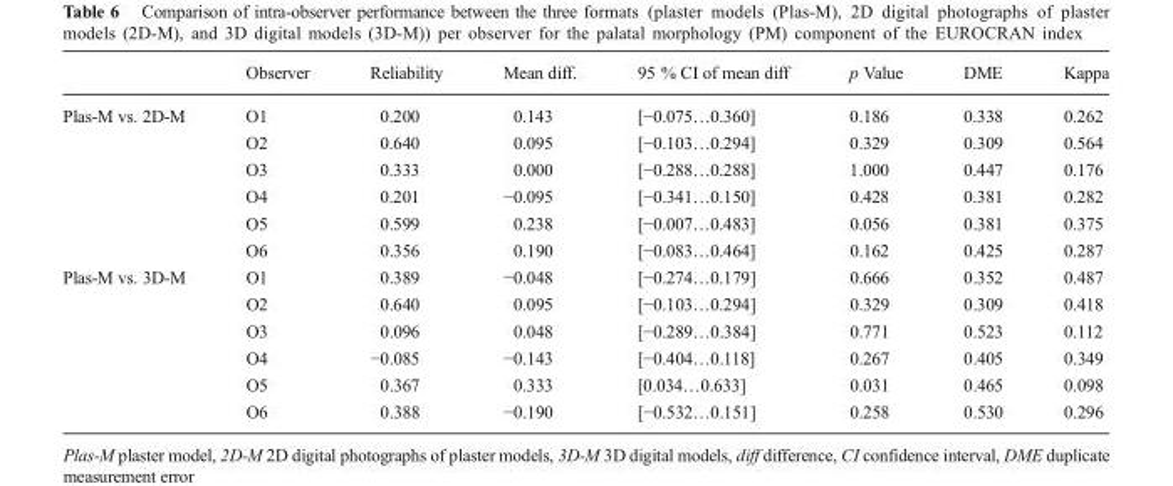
<table><thead><tr><td></td><td>Observer</td><td>Reliability</td><td>Mean diff.</td><td>95 % CI of mean diff</td><td>p Value</td><td>DME</td><td>Kappa</td></tr></thead><tbody><tr><td rowspan="6">Plas-M vs. 2D-M</td><td>O1</td><td>0.200</td><td>0.143</td><td>[−0.075…0.360]</td><td>0.186</td><td>0.338</td><td>0.262</td></tr><tr><td>O2</td><td>0.640</td><td>0.095</td><td>[−0.103…0.294]</td><td>0.329</td><td>0.309</td><td>0.564</td></tr><tr><td>O3</td><td>0.333</td><td>0.000</td><td>[−0.288…0.288]</td><td>1.000</td><td>0.447</td><td>0.176</td></tr><tr><td>O4</td><td>0.201</td><td>−0.095</td><td>[−0.341…0.150]</td><td>0.428</td><td>0.381</td><td>0.282</td></tr><tr><td>O5</td><td>0.599</td><td>0.238</td><td>[−0.007…0.483]</td><td>0.056</td><td>0.381</td><td>0.375</td></tr><tr><td>O6</td><td>0.356</td><td>0.190</td><td>[−0.083…0.464]</td><td>0.162</td><td>0.425</td><td>0.287</td></tr><tr><td rowspan="6">Plas-M vs. 3D-M</td><td>O1</td><td>0.389</td><td>−0.048</td><td>[−0.274…0.179]</td><td>0.666</td><td>0.352</td><td>0.487</td></tr><tr><td>O2</td><td>0.640</td><td>0.095</td><td>[−0.103…0.294]</td><td>0.329</td><td>0.309</td><td>0.418</td></tr><tr><td>O3</td><td>0.096</td><td>0.048</td><td>[−0.289…0.384]</td><td>0.771</td><td>0.523</td><td>0.112</td></tr><tr><td>O4</td><td>−0.085</td><td>−0.143</td><td>[−0.404…0.118]</td><td>0.267</td><td>0.405</td><td>0.349</td></tr><tr><td>O5</td><td>0.367</td><td>0.333</td><td>[0.034…0.633]</td><td>0.031</td><td>0.465</td><td>0.098</td></tr><tr><td>O6</td><td>0.388</td><td>−0.190</td><td>[−0.532…0.151]</td><td>0.258</td><td>0.530</td><td>0.296</td></tr></tbody></table>